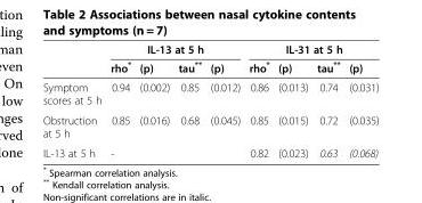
<table><thead><tr><td rowspan="2"></td><td colspan="4">IL-13 at 5 h</td><td colspan="4">IL-31 at 5 h</td></tr><tr><td>rho*</td><td>(p)</td><td>tau**</td><td>(p)</td><td>rho*</td><td>(p)</td><td>tau**</td><td>(p)</td></tr></thead><tbody><tr><td>Symptom scores at 5 h</td><td>0.94</td><td>(0.002)</td><td>0.85</td><td>(0.012)</td><td>0.86</td><td>(0.013)</td><td>0.74</td><td>(0.031)</td></tr><tr><td>Obstruction at 5 h</td><td>0.85</td><td>(0.016)</td><td>0.68</td><td>(0.045)</td><td>0.85</td><td>(0.015)</td><td>0.72</td><td>(0.035)</td></tr><tr><td>IL-13 at 5 h</td><td>-</td><td></td><td></td><td></td><td>0.82</td><td>(0.023)</td><td>0.63</td><td>(0.068)</td></tr></tbody></table>